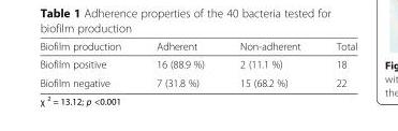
<table><thead><tr><td>Biofilm production</td><td>Adherent</td><td>Non-adherent</td><td>Total</td></tr></thead><tbody><tr><td>Biofilm positive</td><td>16 (88.9 %)</td><td>2 (11.1 %)</td><td>18</td></tr><tr><td>Biofilm negative</td><td>7 (31.8 %)</td><td>15 (68.2 %)</td><td>22</td></tr></tbody></table>